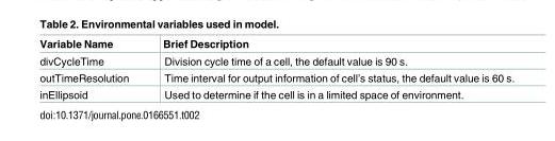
<table><thead><tr><td>Variable Name</td><td>Brief Description</td></tr></thead><tbody><tr><td>divCycleTime</td><td>Division cycle time of a cell, the default value is 90 s.</td></tr><tr><td>outTimeResolution</td><td>Time interval for output information of cell’s status, the default value is 60 s.</td></tr><tr><td>inEllipsoid</td><td>Used to determine if the cell is in a limited space of environment.</td></tr></tbody></table>